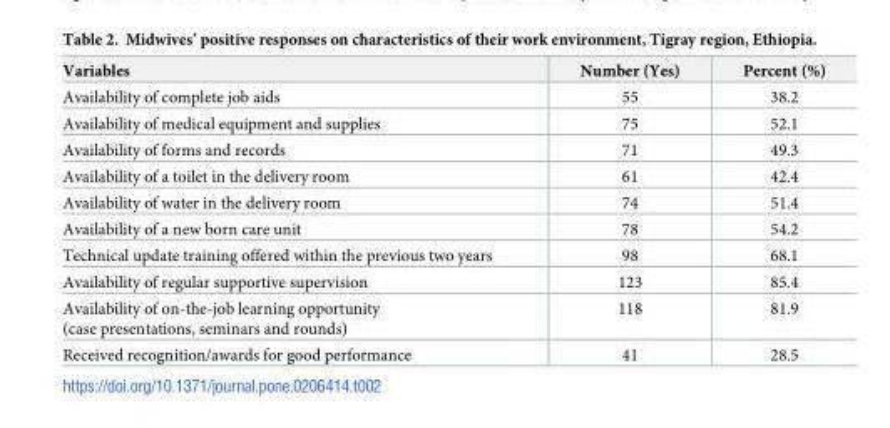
<table><thead><tr><td>Variables</td><td>Number (Yes)</td><td>Percent (%)</td></tr></thead><tbody><tr><td>Availability of complete job aids</td><td>55</td><td>38.2</td></tr><tr><td>Availability of medical equipment and supplies</td><td>75</td><td>52.1</td></tr><tr><td>Availability of forms and records</td><td>71</td><td>49.3</td></tr><tr><td>Availability of a toilet in the delivery room</td><td>61</td><td>42.4</td></tr><tr><td>Availability of water in the delivery room</td><td>74</td><td>51.4</td></tr><tr><td>Availability of a new born care unit</td><td>78</td><td>54.2</td></tr><tr><td>Technical update training offered within the previous two years</td><td>98</td><td>68.1</td></tr><tr><td>Availability of regular supportive supervision</td><td>123</td><td>85.4</td></tr><tr><td>Availability of on-the-job learning opportunity (case presentations, seminars and rounds)</td><td>118</td><td>81.9</td></tr><tr><td>Received recognition/awards for good performance</td><td>41</td><td>28.5</td></tr></tbody></table>